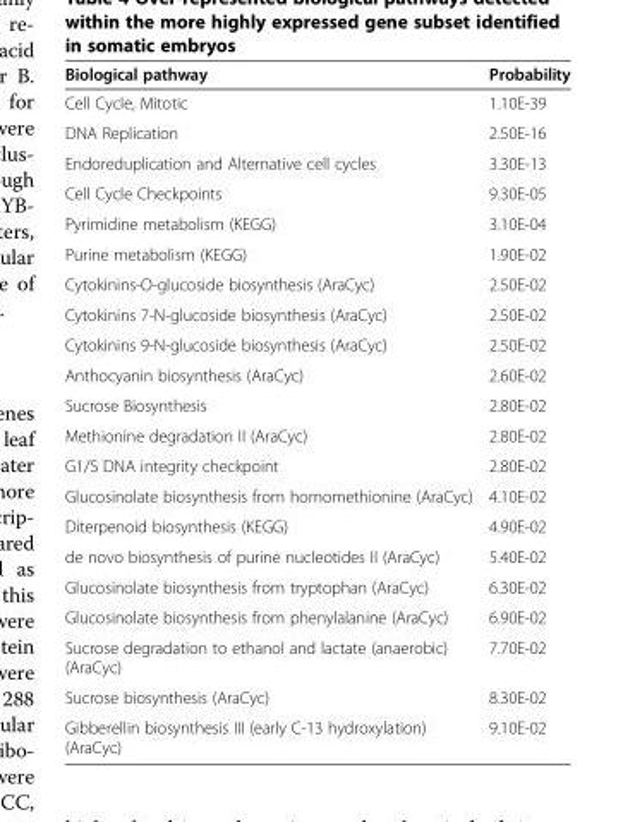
<table><thead><tr><td>Biological pathway</td><td>Probability</td></tr></thead><tbody><tr><td>Cell Cycle, Mitotic</td><td>1.10E-39</td></tr><tr><td>DNA Replication</td><td>2.50E-16</td></tr><tr><td>Endoreduplication and Alternative cell cycles</td><td>3.30E-13</td></tr><tr><td>Cell Cycle Checkpoints</td><td>9.30E-05</td></tr><tr><td>Pyrimidine metabolism (KEGG)</td><td>3.10E-04</td></tr><tr><td>Purine metabolism (KEGG)</td><td>1.90E-02</td></tr><tr><td>Cytokinins-O-glucoside biosynthesis (AraCyc)</td><td>2.50E-02</td></tr><tr><td>Cytokinins 7-N-glucoside biosynthesis (AraCyc)</td><td>2.50E-02</td></tr><tr><td>Cytokinins 9-N-glucoside biosynthesis (AraCyc)</td><td>2.50E-02</td></tr><tr><td>Anthocyanin biosynthesis (AraCyc)</td><td>2.60E-02</td></tr><tr><td>Sucrose Biosynthesis</td><td>2.80E-02</td></tr><tr><td>Methionine degradation II (AraCyc)</td><td>2.80E-02</td></tr><tr><td>G1/S DNA integrity checkpoint</td><td>2.80E-02</td></tr><tr><td>Glucosinolate biosynthesis from homomethionine (AraCyc)</td><td>4.10E-02</td></tr><tr><td>Diterpenoid biosynthesis (KEGG)</td><td>4.90E-02</td></tr><tr><td>de novo biosynthesis of purine nucleotides II (AraCyc)</td><td>5.40E-02</td></tr><tr><td>Glucosinolate biosynthesis from tryptophan (AraCyc)</td><td>6.30E-02</td></tr><tr><td>Glucosinolate biosynthesis from phenylalanine (AraCyc)</td><td>6.90E-02</td></tr><tr><td>Sucrose degradation to ethanol and lactate (anaerobic) (AraCyc)</td><td>7.70E-02</td></tr><tr><td>Sucrose biosynthesis (AraCyc)</td><td>8.30E-02</td></tr><tr><td>Gibberellin biosynthesis III (early C-13 hydroxylation) (AraCyc)</td><td>9.10E-02</td></tr></tbody></table>